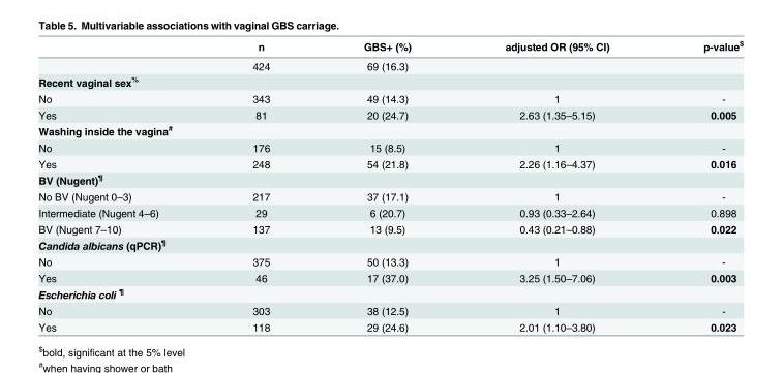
<table><thead><tr><td></td><td>n</td><td>GBS+ (%)</td><td>adjusted OR (95% CI)</td><td>p-value<sup>$</sup></td></tr></thead><tbody><tr><td></td><td>424</td><td>69 (16.3)</td><td></td><td></td></tr><tr><td colspan="5">Recent vaginal sex<sup>%</sup></td></tr><tr><td>No</td><td>343</td><td>49 (14.3)</td><td>1</td><td>-</td></tr><tr><td>Yes</td><td>81</td><td>20 (24.7)</td><td>2.63 (1.35–5.15)</td><td>0.005</td></tr><tr><td colspan="5">Washing inside the vagina<sup>#</sup></td></tr><tr><td>No</td><td>176</td><td>15 (8.5)</td><td>1</td><td>-</td></tr><tr><td>Yes</td><td>248</td><td>54 (21.8)</td><td>2.26 (1.16–4.37)</td><td>0.016</td></tr><tr><td colspan="5">BV (Nugent)<sup>¶</sup></td></tr><tr><td>No BV (Nugent 0–3)</td><td>217</td><td>37 (17.1)</td><td>1</td><td>-</td></tr><tr><td>Intermediate (Nugent 4–6)</td><td>29</td><td>6 (20.7)</td><td>0.93 (0.33–2.64)</td><td>0.898</td></tr><tr><td>BV (Nugent 7–10)</td><td>137</td><td>13 (9.5)</td><td>0.43 (0.21–0.88)</td><td>0.022</td></tr><tr><td colspan="5">Candida albicans (qPCR)<sup>¶</sup></td></tr><tr><td>No</td><td>375</td><td>50 (13.3)</td><td>1</td><td>-</td></tr><tr><td>Yes</td><td>46</td><td>17 (37.0)</td><td>3.25 (1.50–7.06)</td><td>0.003</td></tr><tr><td colspan="5">Escherichia coli <sup>¶</sup></td></tr><tr><td>No</td><td>303</td><td>38 (12.5)</td><td>1</td><td>-</td></tr><tr><td>Yes</td><td>118</td><td>29 (24.6)</td><td>2.01 (1.10–3.80)</td><td>0.023</td></tr></tbody></table>